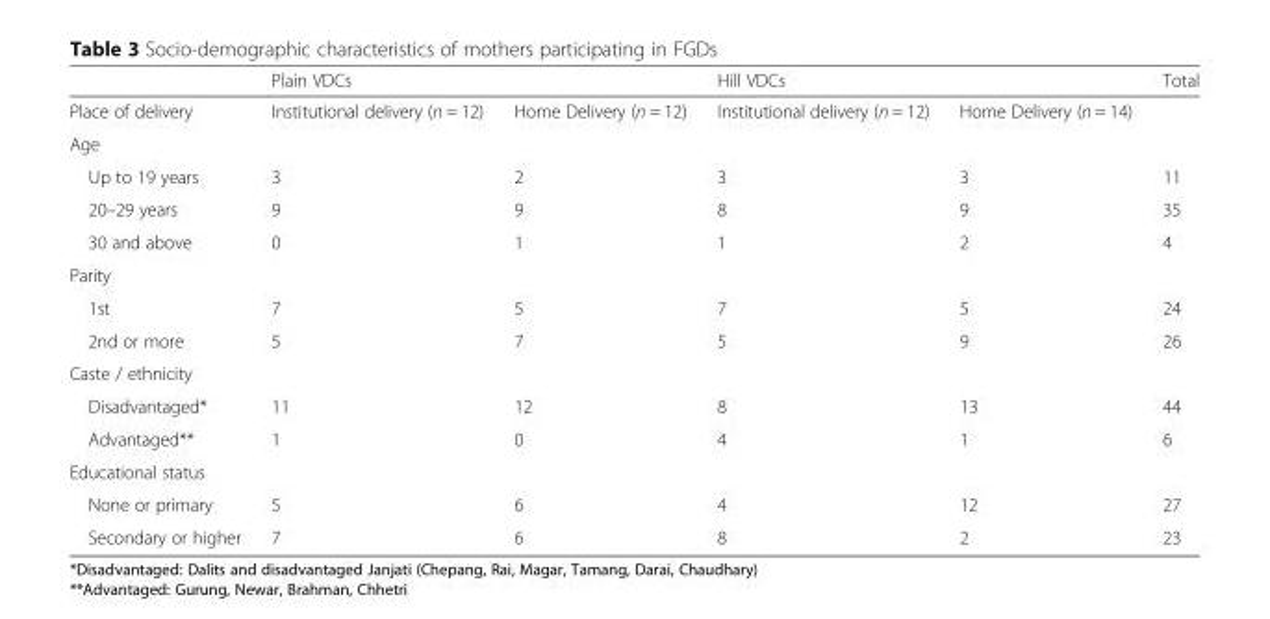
<table><thead><tr><td></td><td>Plain VDCs</td><td></td><td>Hill VDCs</td><td></td><td>Total</td></tr></thead><tbody><tr><td>Place of delivery</td><td>Institutional delivery (n = 12)</td><td>Home Delivery (n = 12)</td><td>Institutional delivery (n = 12)</td><td>Home Delivery (n = 14)</td><td></td></tr><tr><td colspan="6">Age</td></tr><tr><td>Up to 19 years</td><td>3</td><td>2</td><td>3</td><td>3</td><td>11</td></tr><tr><td>20–29 years</td><td>9</td><td>9</td><td>8</td><td>9</td><td>35</td></tr><tr><td>30 and above</td><td>0</td><td>1</td><td>1</td><td>2</td><td>4</td></tr><tr><td colspan="6">Parity</td></tr><tr><td>1st</td><td>7</td><td>5</td><td>7</td><td>5</td><td>24</td></tr><tr><td>2nd or more</td><td>5</td><td>7</td><td>5</td><td>9</td><td>26</td></tr><tr><td colspan="6">Caste / ethnicity</td></tr><tr><td>Disadvantaged*</td><td>11</td><td>12</td><td>8</td><td>13</td><td>44</td></tr><tr><td>Advantaged**</td><td>1</td><td>0</td><td>4</td><td>1</td><td>6</td></tr><tr><td colspan="6">Educational status</td></tr><tr><td>None or primary</td><td>5</td><td>6</td><td>4</td><td>12</td><td>27</td></tr><tr><td>Secondary or higher</td><td>7</td><td>6</td><td>8</td><td>2</td><td>23</td></tr></tbody></table>